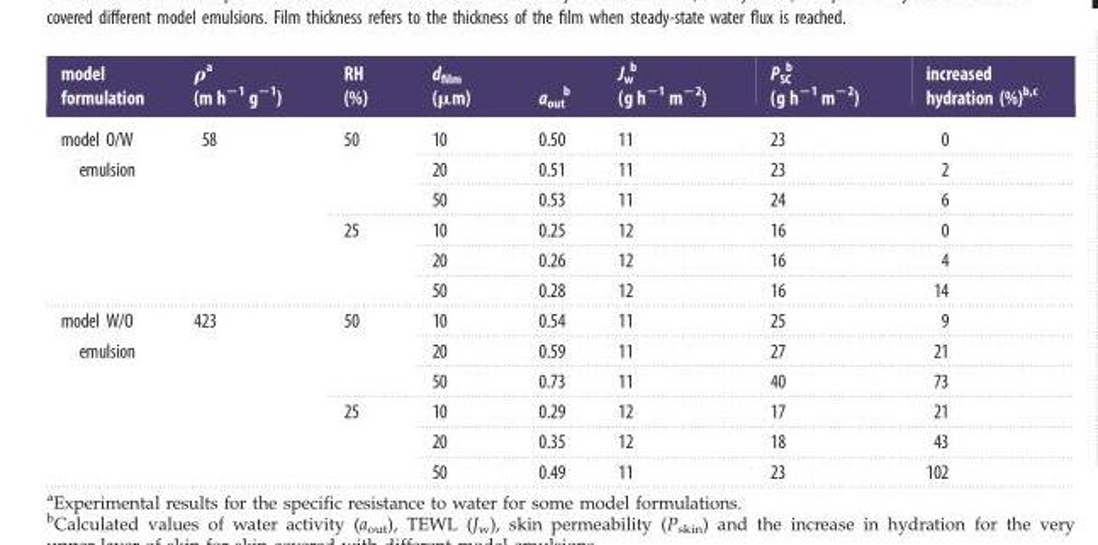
<table><thead><tr><td>model formulation</td><td>ρ<sup>a</sup> (m h<sup>−1</sup> g<sup>−1</sup>)</td><td>RH (%)</td><td>d<sub>film</sub> (μm)</td><td>a<sub>out</sub> <sup>b</sup></td><td>J<sub>w</sub> <sup>b</sup> (g h<sup>−1</sup> m<sup>−2</sup>)</td><td>P<sub>SC</sub> <sup>b</sup> (g h<sup>−1</sup> m<sup>−2</sup>)</td><td>increased hydration (%)<sup>b,c</sup></td></tr></thead><tbody><tr><td rowspan="6">model O/W emulsion</td><td rowspan="6">58</td><td rowspan="3">50</td><td>10</td><td>0.50</td><td>11</td><td>23</td><td>0</td></tr><tr><td>20</td><td>0.51</td><td>11</td><td>23</td><td>2</td></tr><tr><td>50</td><td>0.53</td><td>11</td><td>24</td><td>6</td></tr><tr><td rowspan="3">25</td><td>10</td><td>0.25</td><td>12</td><td>16</td><td>0</td></tr><tr><td>20</td><td>0.26</td><td>12</td><td>16</td><td>4</td></tr><tr><td>50</td><td>0.28</td><td>12</td><td>16</td><td>14</td></tr><tr><td rowspan="6">model W/O emulsion</td><td rowspan="6">423</td><td rowspan="3">50</td><td>10</td><td>0.54</td><td>11</td><td>25</td><td>9</td></tr><tr><td>20</td><td>0.59</td><td>11</td><td>27</td><td>21</td></tr><tr><td>50</td><td>0.73</td><td>11</td><td>40</td><td>73</td></tr><tr><td rowspan="3">25</td><td>10</td><td>0.29</td><td>12</td><td>17</td><td>21</td></tr><tr><td>20</td><td>0.35</td><td>12</td><td>18</td><td>43</td></tr><tr><td>50</td><td>0.49</td><td>11</td><td>23</td><td>102</td></tr></tbody></table>